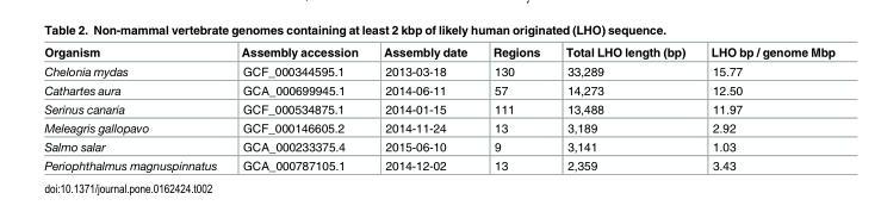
<table><thead><tr><td>Organism</td><td>Assembly accession</td><td>Assembly date</td><td>Regions</td><td>Total LHO length (bp)</td><td>LHO bp / genome Mbp</td></tr></thead><tbody><tr><td>Chelonia mydas</td><td>GCF_000344595.1</td><td>2013-03-18</td><td>130</td><td>33,289</td><td>15.77</td></tr><tr><td>Cathartes aura</td><td>GCA_000699945.1</td><td>2014-06-11</td><td>57</td><td>14,273</td><td>12.50</td></tr><tr><td>Serinus canaria</td><td>GCF_000534875.1</td><td>2014-01-15</td><td>111</td><td>13,488</td><td>11.97</td></tr><tr><td>Meleagris gallopavo</td><td>GCF_000146605.2</td><td>2014-11-24</td><td>13</td><td>3,189</td><td>2.92</td></tr><tr><td>Salmo salar</td><td>GCA_000233375.4</td><td>2015-06-10</td><td>9</td><td>3,141</td><td>1.03</td></tr><tr><td>Periophthalmus magnuspinnatus</td><td>GCA_000787105.1</td><td>2014-12-02</td><td>13</td><td>2,359</td><td>3.43</td></tr></tbody></table>